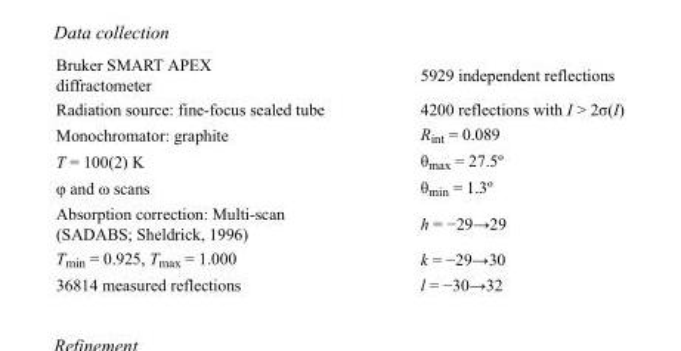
<table><tbody><tr><td>Bruker SMART APEX diffractometer</td><td>5929 independent reflections</td></tr><tr><td>Radiation source: fine-focus sealed tube</td><td>4200 reflections with I &gt; 2σ(I)</td></tr><tr><td>Monochromator: graphite</td><td>R<sub>int</sub> = 0.089</td></tr><tr><td>T = 100(2) K</td><td>θ<sub>max</sub> = 27.5º</td></tr><tr><td>φ and ω scans</td><td>θ<sub>min</sub> = 1.3º</td></tr><tr><td>Absorption correction: Multi-scan (SADABS; Sheldrick, 1996)</td><td>h = −29→29</td></tr><tr><td>T<sub>min</sub> = 0.925, T<sub>max</sub> = 1.000</td><td>k = −29→30</td></tr><tr><td>36814 measured reflections</td><td>l = −30→32</td></tr></tbody></table>